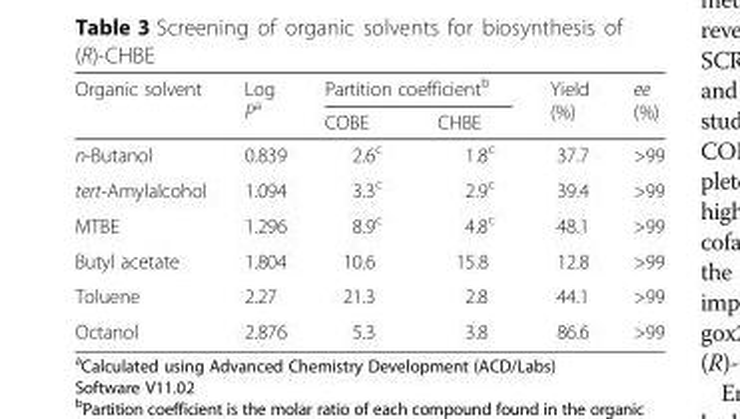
<table><thead><tr><td rowspan="2">Organic solvent</td><td rowspan="2">Log P<sup>a</sup></td><td colspan="2">Partition coefficient<sup>b</sup></td><td rowspan="2">Yield (%)</td><td rowspan="2">ee (%)</td></tr><tr><td>COBE</td><td>CHBE</td></tr></thead><tbody><tr><td>n-Butanol</td><td>0.839</td><td>2.6<sup>c</sup></td><td>1.8<sup>c</sup></td><td>37.7</td><td>&gt;99</td></tr><tr><td>tert-Amylalcohol</td><td>1.094</td><td>3.3<sup>c</sup></td><td>2.9<sup>c</sup></td><td>39.4</td><td>&gt;99</td></tr><tr><td>MTBE</td><td>1.296</td><td>8.9<sup>c</sup></td><td>4.8<sup>c</sup></td><td>48.1</td><td>&gt;99</td></tr><tr><td>Butyl acetate</td><td>1.804</td><td>10.6</td><td>15.8</td><td>12.8</td><td>&gt;99</td></tr><tr><td>Toluene</td><td>2.27</td><td>21.3</td><td>2.8</td><td>44.1</td><td>&gt;99</td></tr><tr><td>Octanol</td><td>2.876</td><td>5.3</td><td>3.8</td><td>86.6</td><td>&gt;99</td></tr></tbody></table>